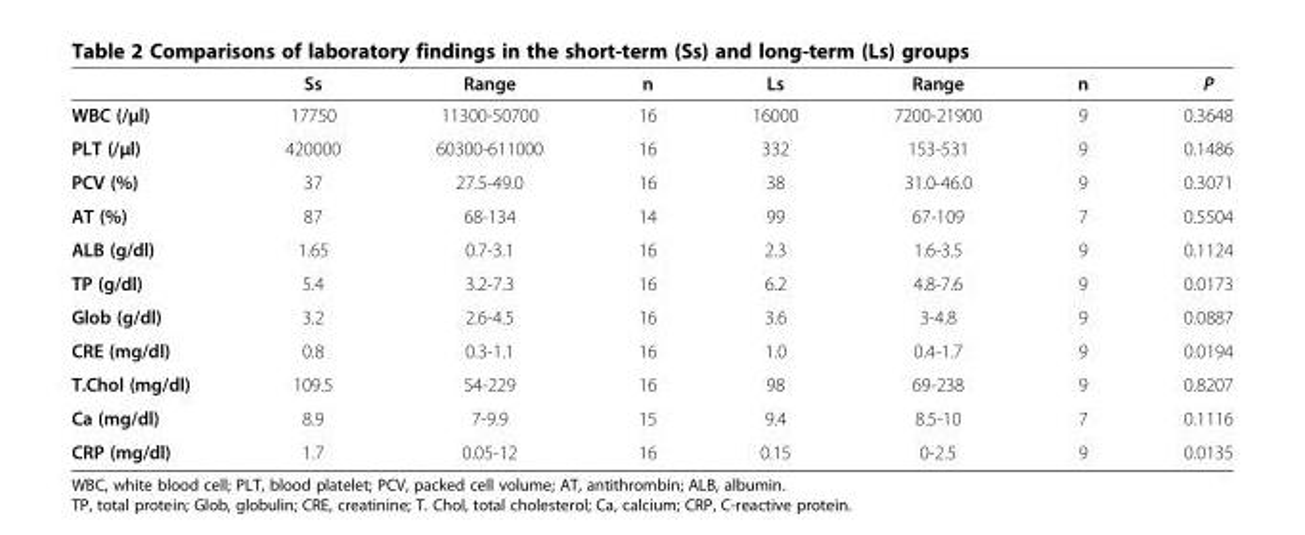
<table><thead><tr><td></td><td>Ss</td><td>Range</td><td>n</td><td>Ls</td><td>Range</td><td>n</td><td>P</td></tr></thead><tbody><tr><td>WBC (/μl)</td><td>17750</td><td>11300-50700</td><td>16</td><td>16000</td><td>7200-21900</td><td>9</td><td>0.3648</td></tr><tr><td>PLT (/μl)</td><td>420000</td><td>60300-611000</td><td>16</td><td>332</td><td>153-531</td><td>9</td><td>0.1486</td></tr><tr><td>PCV (%)</td><td>37</td><td>27.5-49.0</td><td>16</td><td>38</td><td>31.0-46.0</td><td>9</td><td>0.3071</td></tr><tr><td>AT (%)</td><td>87</td><td>68-134</td><td>14</td><td>99</td><td>67-109</td><td>7</td><td>0.5504</td></tr><tr><td>ALB (g/dl)</td><td>1.65</td><td>0.7-3.1</td><td>16</td><td>2.3</td><td>1.6-3.5</td><td>9</td><td>0.1124</td></tr><tr><td>TP (g/dl)</td><td>5.4</td><td>3.2-7.3</td><td>16</td><td>6.2</td><td>4.8-7.6</td><td>9</td><td>0.0173</td></tr><tr><td>Glob (g/dl)</td><td>3.2</td><td>2.6-4.5</td><td>16</td><td>3.6</td><td>3-4.8</td><td>9</td><td>0.0887</td></tr><tr><td>CRE (mg/dl)</td><td>0.8</td><td>0.3-1.1</td><td>16</td><td>1.0</td><td>0.4-1.7</td><td>9</td><td>0.0194</td></tr><tr><td>T.Chol (mg/dl)</td><td>109.5</td><td>54-229</td><td>16</td><td>98</td><td>69-238</td><td>9</td><td>0.8207</td></tr><tr><td>Ca (mg/dl)</td><td>8.9</td><td>7-9.9</td><td>15</td><td>9.4</td><td>8.5-10</td><td>7</td><td>0.1116</td></tr><tr><td>CRP (mg/dl)</td><td>1.7</td><td>0.05-12</td><td>16</td><td>0.15</td><td>0-2.5</td><td>9</td><td>0.0135</td></tr></tbody></table>